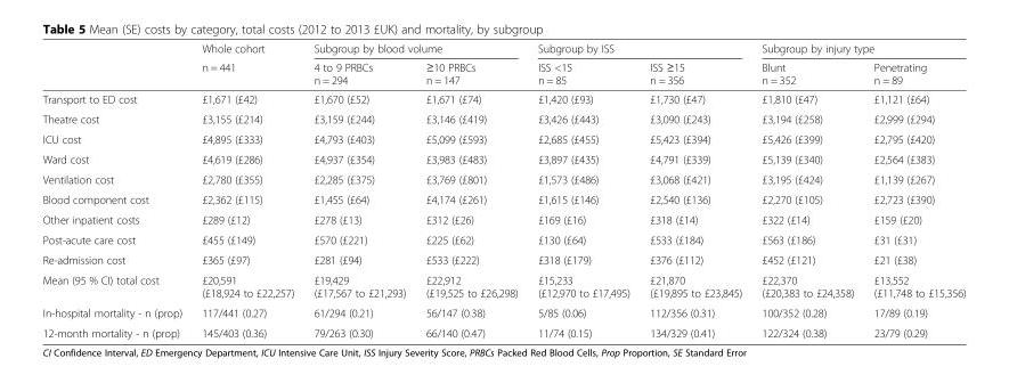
<table><thead><tr><td rowspan="2"></td><td rowspan="2">Whole cohort n = 441</td><td colspan="2">Subgroup by blood volume</td><td colspan="2">Subgroup by ISS</td><td colspan="2">Subgroup by injury type</td></tr><tr><td>4 to 9 PRBCs n = 294</td><td>≥10 PRBCs n = 147</td><td>ISS &lt;15 n = 85</td><td>ISS ≥15 n = 356</td><td>Blunt n = 352</td><td>Penetrating n = 89</td></tr></thead><tbody><tr><td>Transport to ED cost</td><td>£1,671 (£42)</td><td>£1,670 (£52)</td><td>£1,671 (£74)</td><td>£1,420 (£93)</td><td>£1,730 (£47)</td><td>£1,810 (£47)</td><td>£1,121 (£64)</td></tr><tr><td>Theatre cost</td><td>£3,155 (£214)</td><td>£3,159 (£244)</td><td>£3,146 (£419)</td><td>£3,426 (£443)</td><td>£3,090 (£243)</td><td>£3,194 (£258)</td><td>£2,999 (£294)</td></tr><tr><td>ICU cost</td><td>£4,895 (£333)</td><td>£4,793 (£403)</td><td>£5,099 (£593)</td><td>£2,685 (£455)</td><td>£5,423 (£394)</td><td>£5,426 (£399)</td><td>£2,795 (£420)</td></tr><tr><td>Ward cost</td><td>£4,619 (£286)</td><td>£4,937 (£354)</td><td>£3,983 (£483)</td><td>£3,897 (£435)</td><td>£4,791 (£339)</td><td>£5,139 (£340)</td><td>£2,564 (£383)</td></tr><tr><td>Ventilation cost</td><td>£2,780 (£355)</td><td>£2,285 (£375)</td><td>£3,769 (£801)</td><td>£1,573 (£486)</td><td>£3,068 (£421)</td><td>£3,195 (£424)</td><td>£1,139 (£267)</td></tr><tr><td>Blood component cost</td><td>£2,362 (£115)</td><td>£1,455 (£64)</td><td>£4,174 (£261)</td><td>£1,615 (£146)</td><td>£2,540 (£136)</td><td>£2,270 (£105)</td><td>£2,723 (£390)</td></tr><tr><td>Other inpatient costs</td><td>£289 (£12)</td><td>£278 (£13)</td><td>£312 (£26)</td><td>£169 (£16)</td><td>£318 (£14)</td><td>£322 (£14)</td><td>£159 (£20)</td></tr><tr><td>Post-acute care cost</td><td>£455 (£149)</td><td>£570 (£221)</td><td>£225 (£62)</td><td>£130 (£64)</td><td>£533 (£184)</td><td>£563 (£186)</td><td>£31 (£31)</td></tr><tr><td>Re-admission cost</td><td>£365 (£97)</td><td>£281 (£94)</td><td>£533 (£222)</td><td>£318 (£179)</td><td>£376 (£112)</td><td>£452 (£121)</td><td>£21 (£38)</td></tr><tr><td>Mean (95 % CI) total cost</td><td>£20,591 (£18,924 to £22,257)</td><td>£19,429 (£17,567 to £21,293)</td><td>£22,912 (£19,525 to £26,298)</td><td>£15,233 (£12,970 to £17,495)</td><td>£21,870 (£19,895 to £23,845)</td><td>£22,370 (£20,383 to £24,358)</td><td>£13,552 (£11,748 to £15,356)</td></tr><tr><td>In-hospital mortality - n (prop)</td><td>117/441 (0.27)</td><td>61/294 (0.21)</td><td>56/147 (0.38)</td><td>5/85 (0.06)</td><td>112/356 (0.31)</td><td>100/352 (0.28)</td><td>17/89 (0.19)</td></tr><tr><td>12-month mortality - n (prop)</td><td>145/403 (0.36)</td><td>79/263 (0.30)</td><td>66/140 (0.47)</td><td>11/74 (0.15)</td><td>134/329 (0.41)</td><td>122/324 (0.38)</td><td>23/79 (0.29)</td></tr></tbody></table>